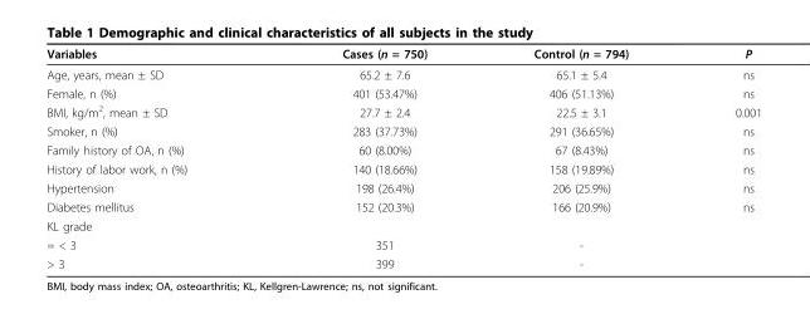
<table><thead><tr><td>Variables</td><td>Cases (n = 750)</td><td>Control (n = 794)</td><td>P</td></tr></thead><tbody><tr><td>Age, years, mean ± SD</td><td>65.2 ± 7.6</td><td>65.1 ± 5.4</td><td>ns</td></tr><tr><td>Female, n (%)</td><td>401 (53.47%)</td><td>406 (51.13%)</td><td>ns</td></tr><tr><td>BMI, kg/m<sup>2</sup>, mean ± SD</td><td>27.7 ± 2.4</td><td>22.5 ± 3.1</td><td>0.001</td></tr><tr><td>Smoker, n (%)</td><td>283 (37.73%)</td><td>291 (36.65%)</td><td>ns</td></tr><tr><td>Family history of OA, n (%)</td><td>60 (8.00%)</td><td>67 (8.43%)</td><td>ns</td></tr><tr><td>History of labor work, n (%)</td><td>140 (18.66%)</td><td>158 (19.89%)</td><td>ns</td></tr><tr><td>Hypertension</td><td>198 (26.4%)</td><td>206 (25.9%)</td><td>ns</td></tr><tr><td>Diabetes mellitus</td><td>152 (20.3%)</td><td>166 (20.9%)</td><td>ns</td></tr><tr><td colspan="4">KL grade</td></tr><tr><td>= &lt; 3</td><td>351</td><td>-</td><td></td></tr><tr><td>&gt; 3</td><td>399</td><td>-</td><td></td></tr></tbody></table>